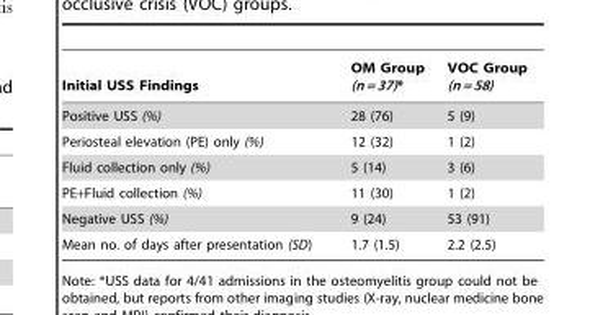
<table><thead><tr><td>Initial USS Findings</td><td>OM Group (n = 37)*</td><td>VOC Group (n = 58)</td></tr></thead><tbody><tr><td>Positive USS (%)</td><td>28 (76)</td><td>5 (9)</td></tr><tr><td>Periosteal elevation (PE) only (%)</td><td>12 (32)</td><td>1 (2)</td></tr><tr><td>Fluid collection only (%)</td><td>5 (14)</td><td>3 (6)</td></tr><tr><td>PE+Fluid collection (%)</td><td>11 (30)</td><td>1 (2)</td></tr><tr><td>Negative USS (%)</td><td>9 (24)</td><td>53 (91)</td></tr><tr><td>Mean no. of days after presentation (SD)</td><td>1.7 (1.5)</td><td>2.2 (2.5)</td></tr></tbody></table>